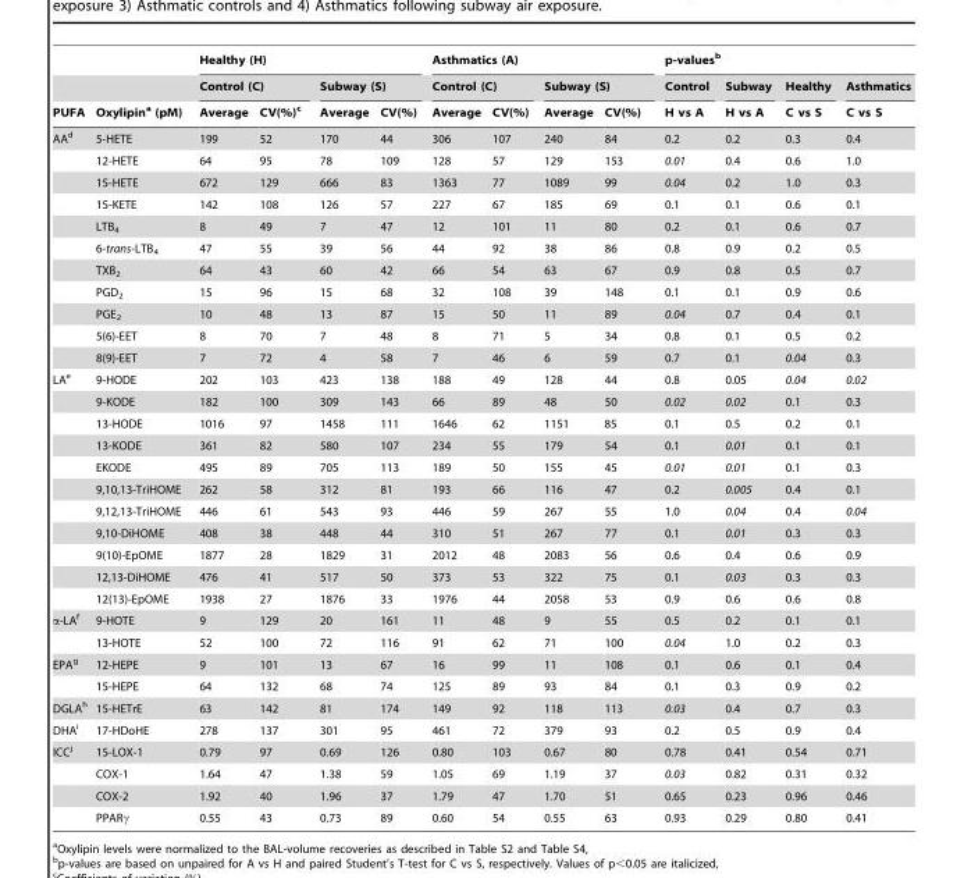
<table><thead><tr><td rowspan="3">PUFA</td><td rowspan="3">Oxylipin<sup>a</sup> (pM)</td><td colspan="4">Healthy (H)</td><td colspan="4">Asthmatics (A)</td><td colspan="4">p-values<sup>b</sup></td></tr><tr><td colspan="2">Control (C)</td><td colspan="2">Subway (S)</td><td colspan="2">Control (C)</td><td colspan="2">Subway (S)</td><td rowspan="2">Control H vs A</td><td rowspan="2">Subway H vs A</td><td rowspan="2">Healthy C vs S</td><td rowspan="2">Asthmatics C vs S</td></tr><tr><td>Average</td><td>CV(%)<sup>c</sup></td><td>Average</td><td>CV(%)</td><td>Average</td><td>CV(%)</td><td>Average</td><td>CV(%)</td></tr></thead><tbody><tr><td rowspan="11">AA<sup>d</sup></td><td>5-HETE</td><td>199</td><td>52</td><td>170</td><td>44</td><td>306</td><td>107</td><td>240</td><td>84</td><td>0.2</td><td>0.2</td><td>0.3</td><td>0.4</td></tr><tr><td>12-HETE</td><td>64</td><td>95</td><td>78</td><td>109</td><td>128</td><td>57</td><td>129</td><td>153</td><td>0.01</td><td>0.4</td><td>0.6</td><td>1.0</td></tr><tr><td>15-HETE</td><td>672</td><td>129</td><td>666</td><td>83</td><td>1363</td><td>77</td><td>1089</td><td>99</td><td>0.04</td><td>0.2</td><td>1.0</td><td>0.3</td></tr><tr><td>15-KETE</td><td>142</td><td>108</td><td>126</td><td>57</td><td>227</td><td>67</td><td>185</td><td>69</td><td>0.1</td><td>0.1</td><td>0.6</td><td>0.1</td></tr><tr><td>LTB<sub>4</sub></td><td>8</td><td>49</td><td>7</td><td>47</td><td>12</td><td>101</td><td>11</td><td>80</td><td>0.2</td><td>0.1</td><td>0.6</td><td>0.7</td></tr><tr><td>6-trans-LTB<sub>4</sub></td><td>47</td><td>55</td><td>39</td><td>56</td><td>44</td><td>92</td><td>38</td><td>86</td><td>0.8</td><td>0.9</td><td>0.2</td><td>0.5</td></tr><tr><td>TXB<sub>2</sub></td><td>64</td><td>43</td><td>60</td><td>42</td><td>66</td><td>54</td><td>63</td><td>67</td><td>0.9</td><td>0.8</td><td>0.5</td><td>0.7</td></tr><tr><td>PGD<sub>2</sub></td><td>15</td><td>96</td><td>15</td><td>68</td><td>32</td><td>108</td><td>39</td><td>148</td><td>0.1</td><td>0.1</td><td>0.9</td><td>0.6</td></tr><tr><td>PGE<sub>2</sub></td><td>10</td><td>48</td><td>13</td><td>87</td><td>15</td><td>50</td><td>11</td><td>89</td><td>0.04</td><td>0.7</td><td>0.4</td><td>0.1</td></tr><tr><td>5(6)-EET</td><td>8</td><td>70</td><td>7</td><td>48</td><td>8</td><td>71</td><td>5</td><td>34</td><td>0.8</td><td>0.1</td><td>0.5</td><td>0.2</td></tr><tr><td>8(9)-EET</td><td>7</td><td>72</td><td>4</td><td>58</td><td>7</td><td>46</td><td>6</td><td>59</td><td>0.7</td><td>0.1</td><td>0.04</td><td>0.3</td></tr><tr><td rowspan="11">LA<sup>e</sup></td><td>9-HODE</td><td>202</td><td>103</td><td>423</td><td>138</td><td>188</td><td>49</td><td>128</td><td>44</td><td>0.8</td><td>0.05</td><td>0.04</td><td>0.02</td></tr><tr><td>9-KODE</td><td>182</td><td>100</td><td>309</td><td>143</td><td>66</td><td>89</td><td>48</td><td>50</td><td>0.02</td><td>0.02</td><td>0.1</td><td>0.3</td></tr><tr><td>13-HODE</td><td>1016</td><td>97</td><td>1458</td><td>111</td><td>1646</td><td>62</td><td>1151</td><td>85</td><td>0.1</td><td>0.5</td><td>0.2</td><td>0.1</td></tr><tr><td>13-KODE</td><td>361</td><td>82</td><td>580</td><td>107</td><td>234</td><td>55</td><td>179</td><td>54</td><td>0.1</td><td>0.01</td><td>0.1</td><td>0.1</td></tr><tr><td>EKODE</td><td>495</td><td>89</td><td>705</td><td>113</td><td>189</td><td>50</td><td>155</td><td>45</td><td>0.01</td><td>0.01</td><td>0.1</td><td>0.3</td></tr><tr><td>9,10,13-TriHOME</td><td>262</td><td>58</td><td>312</td><td>81</td><td>193</td><td>66</td><td>116</td><td>47</td><td>0.2</td><td>0.005</td><td>0.4</td><td>0.1</td></tr><tr><td>9,12,13-TriHOME</td><td>446</td><td>61</td><td>543</td><td>93</td><td>446</td><td>59</td><td>267</td><td>55</td><td>1.0</td><td>0.04</td><td>0.4</td><td>0.04</td></tr><tr><td>9,10-DiHOME</td><td>408</td><td>38</td><td>448</td><td>44</td><td>310</td><td>51</td><td>267</td><td>77</td><td>0.1</td><td>0.01</td><td>0.3</td><td>0.3</td></tr><tr><td>9(10)-EpOME</td><td>1877</td><td>28</td><td>1829</td><td>31</td><td>2012</td><td>48</td><td>2083</td><td>56</td><td>0.6</td><td>0.4</td><td>0.6</td><td>0.9</td></tr><tr><td>12,13-DiHOME</td><td>476</td><td>41</td><td>517</td><td>50</td><td>373</td><td>53</td><td>322</td><td>75</td><td>0.1</td><td>0.03</td><td>0.3</td><td>0.3</td></tr><tr><td>12(13)-EpOME</td><td>1938</td><td>27</td><td>1876</td><td>33</td><td>1976</td><td>44</td><td>2058</td><td>53</td><td>0.9</td><td>0.6</td><td>0.6</td><td>0.8</td></tr><tr><td rowspan="2">α-LA<sup>f</sup></td><td>9-HOTE</td><td>9</td><td>129</td><td>20</td><td>161</td><td>11</td><td>48</td><td>9</td><td>55</td><td>0.5</td><td>0.2</td><td>0.1</td><td>0.1</td></tr><tr><td>13-HOTE</td><td>52</td><td>100</td><td>72</td><td>116</td><td>91</td><td>62</td><td>71</td><td>100</td><td>0.04</td><td>1.0</td><td>0.2</td><td>0.3</td></tr><tr><td rowspan="2">EPA<sup>g</sup></td><td>12-HEPE</td><td>9</td><td>101</td><td>13</td><td>67</td><td>16</td><td>99</td><td>11</td><td>108</td><td>0.1</td><td>0.6</td><td>0.1</td><td>0.4</td></tr><tr><td>15-HEPE</td><td>64</td><td>132</td><td>68</td><td>74</td><td>125</td><td>89</td><td>93</td><td>84</td><td>0.1</td><td>0.3</td><td>0.9</td><td>0.2</td></tr><tr><td>DGLA<sup>h</sup></td><td>15-HETrE</td><td>63</td><td>142</td><td>81</td><td>174</td><td>149</td><td>92</td><td>118</td><td>113</td><td>0.03</td><td>0.4</td><td>0.7</td><td>0.3</td></tr><tr><td>DHA<sup>i</sup></td><td>17-HDoHE</td><td>278</td><td>137</td><td>301</td><td>95</td><td>461</td><td>72</td><td>379</td><td>93</td><td>0.2</td><td>0.5</td><td>0.9</td><td>0.4</td></tr><tr><td rowspan="4">ICC<sup>j</sup></td><td>15-LOX-1</td><td>0.79</td><td>97</td><td>0.69</td><td>126</td><td>0.80</td><td>103</td><td>0.67</td><td>80</td><td>0.78</td><td>0.41</td><td>0.54</td><td>0.71</td></tr><tr><td>COX-1</td><td>1.64</td><td>47</td><td>1.38</td><td>59</td><td>1.05</td><td>69</td><td>1.19</td><td>37</td><td>0.03</td><td>0.82</td><td>0.31</td><td>0.32</td></tr><tr><td>COX-2</td><td>1.92</td><td>40</td><td>1.96</td><td>37</td><td>1.79</td><td>47</td><td>1.70</td><td>51</td><td>0.65</td><td>0.23</td><td>0.96</td><td>0.46</td></tr><tr><td>PPARγ</td><td>0.55</td><td>43</td><td>0.73</td><td>89</td><td>0.60</td><td>54</td><td>0.55</td><td>63</td><td>0.93</td><td>0.29</td><td>0.80</td><td>0.41</td></tr></tbody></table>